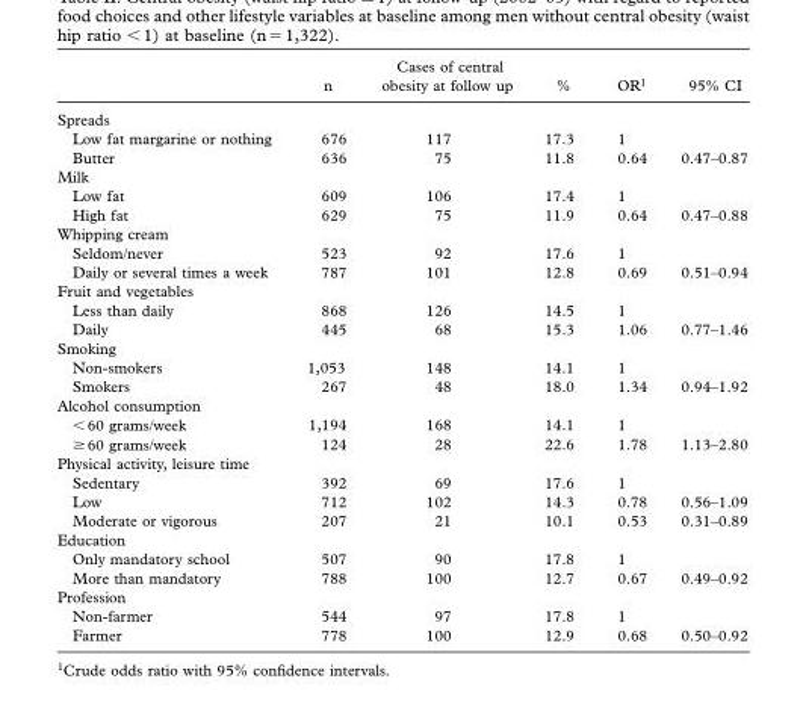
<table><thead><tr><td></td><td>n</td><td>Cases of central obesity at follow up</td><td>%</td><td>OR <sup>1</sup></td><td>95% CI</td></tr></thead><tbody><tr><td colspan="6">Spreads</td></tr><tr><td>Low fat margarine or nothing</td><td>676</td><td>117</td><td>17.3</td><td>1</td><td></td></tr><tr><td>Butter</td><td>636</td><td>75</td><td>11.8</td><td>0.64</td><td>0.47 – 0.87</td></tr><tr><td colspan="6">Milk</td></tr><tr><td>Low fat</td><td>609</td><td>106</td><td>17.4</td><td>1</td><td></td></tr><tr><td>High fat</td><td>629</td><td>75</td><td>11.9</td><td>0.64</td><td>0.47 – 0.88</td></tr><tr><td colspan="6">Whipping cream</td></tr><tr><td>Seldom/never</td><td>523</td><td>92</td><td>17.6</td><td>1</td><td></td></tr><tr><td>Daily or several times a week</td><td>787</td><td>101</td><td>12.8</td><td>0.69</td><td>0.51 – 0.94</td></tr><tr><td colspan="6">Fruit and vegetables</td></tr><tr><td>Less than daily</td><td>868</td><td>126</td><td>14.5</td><td>1</td><td></td></tr><tr><td>Daily</td><td>445</td><td>68</td><td>15.3</td><td>1.06</td><td>0.77 – 1.46</td></tr><tr><td colspan="6">Smoking</td></tr><tr><td>Non-smokers</td><td>1,053</td><td>148</td><td>14.1</td><td>1</td><td></td></tr><tr><td>Smokers</td><td>267</td><td>48</td><td>18.0</td><td>1.34</td><td>0.94 – 1.92</td></tr><tr><td colspan="6">Alcohol consumption</td></tr><tr><td>&lt; 60 grams/week</td><td>1,194</td><td>168</td><td>14.1</td><td>1</td><td></td></tr><tr><td>≥ 60 grams/week</td><td>124</td><td>28</td><td>22.6</td><td>1.78</td><td>1.13 – 2.80</td></tr><tr><td colspan="6">Physical activity, leisure time</td></tr><tr><td>Sedentary</td><td>392</td><td>69</td><td>17.6</td><td>1</td><td></td></tr><tr><td>Low</td><td>712</td><td>102</td><td>14.3</td><td>0.78</td><td>0.56 – 1.09</td></tr><tr><td>Moderate or vigorous</td><td>207</td><td>21</td><td>10.1</td><td>0.53</td><td>0.31 – 0.89</td></tr><tr><td colspan="6">Education</td></tr><tr><td>Only mandatory school</td><td>507</td><td>90</td><td>17.8</td><td>1</td><td></td></tr><tr><td>More than mandatory</td><td>788</td><td>100</td><td>12.7</td><td>0.67</td><td>0.49 – 0.92</td></tr><tr><td colspan="6">Profession</td></tr><tr><td>Non-farmer</td><td>544</td><td>97</td><td>17.8</td><td>1</td><td></td></tr><tr><td>Farmer</td><td>778</td><td>100</td><td>12.9</td><td>0.68</td><td>0.50 – 0.92</td></tr></tbody></table>